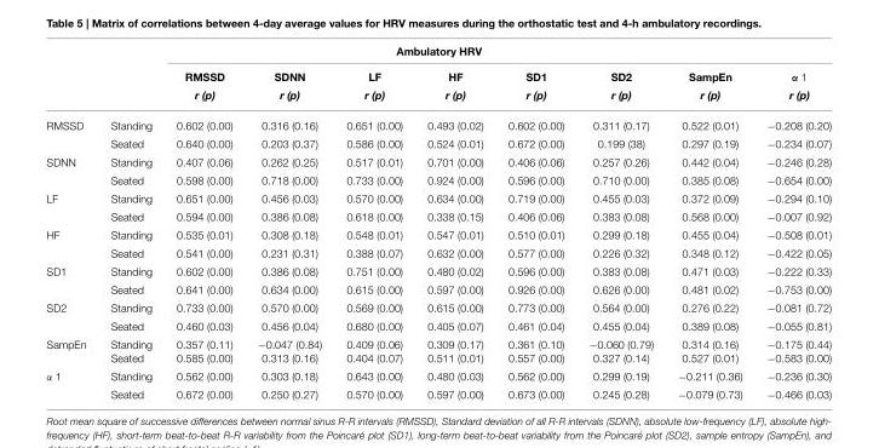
<table><thead><tr><td colspan="10">Ambulatory HRV</td></tr><tr><td rowspan="2"></td><td rowspan="2"></td><td rowspan="2">RMSSD r (p)</td><td rowspan="2">SDNN r (p)</td><td rowspan="2">LF r (p)</td><td rowspan="2">HF r (p)</td><td rowspan="2">SD1 r (p)</td><td rowspan="2">SD2 r (p)</td><td rowspan="2">SampEn r (p)</td><td rowspan="2">α 1 r (p)</td></tr><tr></tr></thead><tbody><tr><td rowspan="2">RMSSD</td><td>Standing</td><td>0.602 (0.00)</td><td>0.316 (0.16)</td><td>0.651 (0.00)</td><td>0.493 (0.02)</td><td>0.602 (0.00)</td><td>0.311 (0.17)</td><td>0.522 (0.01)</td><td>−0.208 (0.20)</td></tr><tr><td>Seated</td><td>0.640 (0.00)</td><td>0.203 (0.37)</td><td>0.586 (0.00)</td><td>0.524 (0.01)</td><td>0.672 (0.00)</td><td>0.199 (38)</td><td>0.297 (0.19)</td><td>−0.234 (0.07)</td></tr><tr><td rowspan="2">SDNN</td><td>Standing</td><td>0.407 (0.06)</td><td>0.262 (0.25)</td><td>0.517 (0.01)</td><td>0.701 (0.00)</td><td>0.406 (0.06)</td><td>0.257 (0.26)</td><td>0.442 (0.04)</td><td>−0.246 (0.28)</td></tr><tr><td>Seated</td><td>0.598 (0.00)</td><td>0.718 (0.00)</td><td>0.733 (0.00)</td><td>0.924 (0.00)</td><td>0.596 (0.00)</td><td>0.710 (0.00)</td><td>0.385 (0.08)</td><td>−0.654 (0.00)</td></tr><tr><td rowspan="2">LF</td><td>Standing</td><td>0.651 (0.00)</td><td>0.456 (0.03)</td><td>0.570 (0.00)</td><td>0.634 (0.00)</td><td>0.719 (0.00)</td><td>0.455 (0.03)</td><td>0.372 (0.09)</td><td>−0.294 (0.10)</td></tr><tr><td>Seated</td><td>0.594 (0.00)</td><td>0.386 (0.08)</td><td>0.618 (0.00)</td><td>0.338 (0.15)</td><td>0.406 (0.06)</td><td>0.383 (0.08)</td><td>0.568 (0.00)</td><td>−0.007 (0.92)</td></tr><tr><td rowspan="2">HF</td><td>Standing</td><td>0.535 (0.01)</td><td>0.308 (0.18)</td><td>0.548 (0.01)</td><td>0.547 (0.01)</td><td>0.510 (0.01)</td><td>0.299 (0.18)</td><td>0.455 (0.04)</td><td>−0.508 (0.01)</td></tr><tr><td>Seated</td><td>0.541 (0.00)</td><td>0.231 (0.31)</td><td>0.388 (0.07)</td><td>0.632 (0.00)</td><td>0.577 (0.00)</td><td>0.226 (0.32)</td><td>0.348 (0.12)</td><td>−0.422 (0.05)</td></tr><tr><td rowspan="2">SD1</td><td>Standing</td><td>0.602 (0.00)</td><td>0.386 (0.08)</td><td>0.751 (0.00)</td><td>0.480 (0.02)</td><td>0.596 (0.00)</td><td>0.383 (0.08)</td><td>0.471 (0.03)</td><td>−0.222 (0.33)</td></tr><tr><td>Seated</td><td>0.641 (0.00)</td><td>0.634 (0.00)</td><td>0.615 (0.00)</td><td>0.597 (0.00)</td><td>0.926 (0.00)</td><td>0.626 (0.00)</td><td>0.481 (0.02)</td><td>−0.753 (0.00)</td></tr><tr><td rowspan="2">SD2</td><td>Standing</td><td>0.733 (0.00)</td><td>0.570 (0.00)</td><td>0.569 (0.00)</td><td>0.615 (0.00)</td><td>0.773 (0.00)</td><td>0.564 (0.00)</td><td>0.276 (0.22)</td><td>−0.081 (0.72)</td></tr><tr><td>Seated</td><td>0.460 (0.03)</td><td>0.456 (0.04)</td><td>0.680 (0.00)</td><td>0.405 (0.07)</td><td>0.461 (0.04)</td><td>0.455 (0.04)</td><td>0.389 (0.08)</td><td>−0.055 (0.81)</td></tr><tr><td rowspan="2">SampEn</td><td>Standing</td><td>0.357 (0.11)</td><td>−0.047 (0.84)</td><td>0.409 (0.06)</td><td>0.309 (0.17)</td><td>0.361 (0.10)</td><td>−0.060 (0.79)</td><td>0.314 (0.16)</td><td>−0.175 (0.44)</td></tr><tr><td>Seated</td><td>0.585 (0.00)</td><td>0.313 (0.16)</td><td>0.404 (0.07)</td><td>0.511 (0.01)</td><td>0.557 (0.00)</td><td>0.327 (0.14)</td><td>0.527 (0.01)</td><td>−0.583 (0.00)</td></tr><tr><td rowspan="2">α 1</td><td>Standing</td><td>0.562 (0.00)</td><td>0.303 (0.18)</td><td>0.643 (0.00)</td><td>0.480 (0.03)</td><td>0.562 (0.00)</td><td>0.299 (0.19)</td><td>−0.211 (0.36)</td><td>−0.236 (0.30)</td></tr><tr><td>Seated</td><td>0.672 (0.00)</td><td>0.250 (0.27)</td><td>0.570 (0.00)</td><td>0.597 (0.00)</td><td>0.673 (0.00)</td><td>0.245 (0.28)</td><td>−0.079 (0.73)</td><td>−0.466 (0.03)</td></tr></tbody></table>